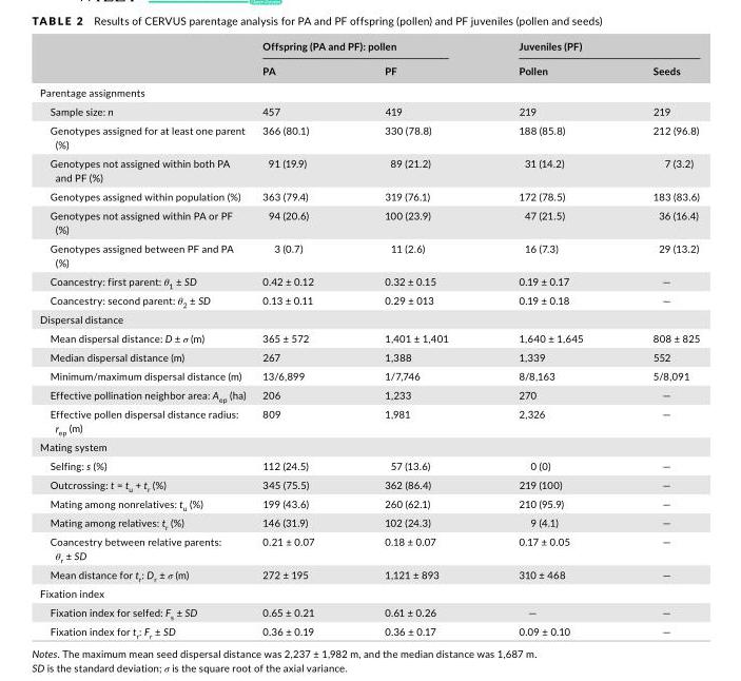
<table><thead><tr><td rowspan="2"></td><td colspan="2">Offspring (PA and PF): pollen</td><td colspan="2">Juveniles (PF)</td></tr><tr><td>PA</td><td>PF</td><td>Pollen</td><td>Seeds</td></tr></thead><tbody><tr><td colspan="5">Parentage assignments</td></tr><tr><td>Sample size: n</td><td>457</td><td>419</td><td>219</td><td>219</td></tr><tr><td>Genotypes assigned for at least one parent (%)</td><td>366 (80.1)</td><td>330 (78.8)</td><td>188 (85.8)</td><td>212 (96.8)</td></tr><tr><td>Genotypes not assigned within both PA and PF (%)</td><td>91 (19.9)</td><td>89 (21.2)</td><td>31 (14.2)</td><td>7 (3.2)</td></tr><tr><td>Genotypes assigned within population (%)</td><td>363 (79.4)</td><td>319 (76.1)</td><td>172 (78.5)</td><td>183 (83.6)</td></tr><tr><td>Genotypes not assigned within PA or PF (%)</td><td>94 (20.6)</td><td>100 (23.9)</td><td>47 (21.5)</td><td>36 (16.4)</td></tr><tr><td>Genotypes assigned between PF and PA (%)</td><td>3 (0.7)</td><td>11 (2.6)</td><td>16 (7.3)</td><td>29 (13.2)</td></tr><tr><td>Coancestry: first parent: θ<sub>1</sub> ± SD</td><td>0.42 ± 0.12</td><td>0.32 ± 0.15</td><td>0.19 ± 0.17</td><td>—</td></tr><tr><td>Coancestry: second parent: θ<sub>2</sub> ± SD</td><td>0.13 ± 0.11</td><td>0.29 ± 013</td><td>0.19 ± 0.18</td><td>—</td></tr><tr><td colspan="5">Dispersal distance</td></tr><tr><td>Mean dispersal distance: D ± σ (m)</td><td>365 ± 572</td><td>1,401 ± 1,401</td><td>1,640 ± 1,645</td><td>808 ± 825</td></tr><tr><td>Median dispersal distance (m)</td><td>267</td><td>1,388</td><td>1,339</td><td>552</td></tr><tr><td>Minimum/maximum dispersal distance (m)</td><td>13/6,899</td><td>1/7,746</td><td>8/8,163</td><td>5/8,091</td></tr><tr><td>Effective pollination neighbor area: A<sub>ep</sub> (ha)</td><td>206</td><td>1,233</td><td>270</td><td>—</td></tr><tr><td>Effective pollen dispersal distance radius: r<sub>ep</sub> (m)</td><td>809</td><td>1,981</td><td>2,326</td><td>—</td></tr><tr><td colspan="5">Mating system</td></tr><tr><td>Selfing: s (%)</td><td>112 (24.5)</td><td>57 (13.6)</td><td>0 (0)</td><td>—</td></tr><tr><td>Outcrossing: t = t<sub>u</sub> + t<sub>r</sub> (%)</td><td>345 (75.5)</td><td>362 (86.4)</td><td>219 (100)</td><td>—</td></tr><tr><td>Mating among nonrelatives: t<sub>u</sub> (%)</td><td>199 (43.6)</td><td>260 (62.1)</td><td>210 (95.9)</td><td>—</td></tr><tr><td>Mating among relatives: t<sub>r</sub> (%)</td><td>146 (31.9)</td><td>102 (24.3)</td><td>9 (4.1)</td><td>—</td></tr><tr><td>Coancestry between relative parents: θ<sub>r</sub> ± SD</td><td>0.21 ± 0.07</td><td>0.18 ± 0.07</td><td>0.17 ± 0.05</td><td>—</td></tr><tr><td>Mean distance for t<sub>r</sub>: D<sub>r</sub> ± σ (m)</td><td>272 ± 195</td><td>1,121 ± 893</td><td>310 ± 468</td><td>—</td></tr><tr><td colspan="5">Fixation index</td></tr><tr><td>Fixation index for selfed: F<sub>s</sub> ± SD</td><td>0.65 ± 0.21</td><td>0.61 ± 0.26</td><td>—</td><td>—</td></tr><tr><td>Fixation index for t<sub>r</sub>: F<sub>r</sub> ± SD</td><td>0.36 ± 0.19</td><td>0.36 ± 0.17</td><td>0.09 ± 0.10</td><td>—</td></tr></tbody></table>